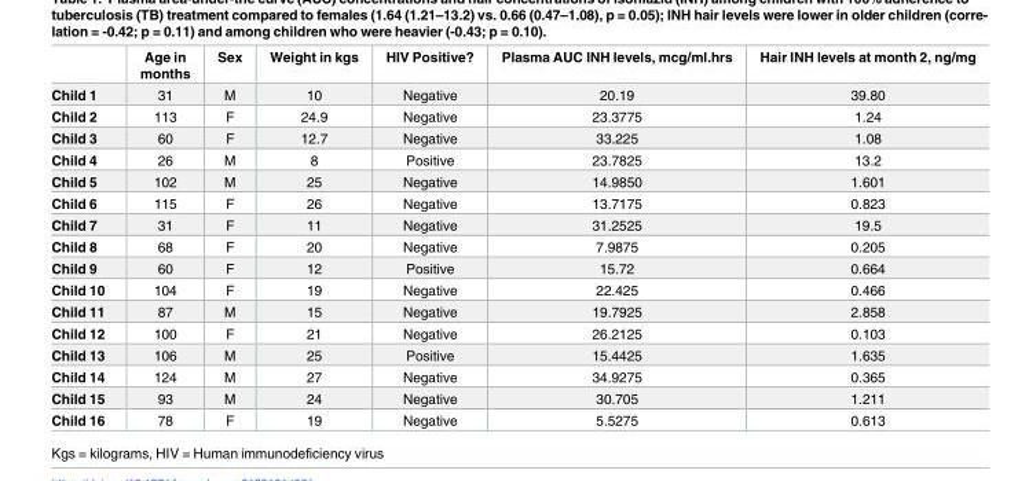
<table><thead><tr><td></td><td>Age in months</td><td>Sex</td><td>Weight in kgs</td><td>HIV Positive?</td><td>Plasma AUC INH levels, mcg/ml.hrs</td><td>Hair INH levels at month 2, ng/mg</td></tr></thead><tbody><tr><td>Child 1</td><td>31</td><td>M</td><td>10</td><td>Negative</td><td>20.19</td><td>39.80</td></tr><tr><td>Child 2</td><td>113</td><td>F</td><td>24.9</td><td>Negative</td><td>23.3775</td><td>1.24</td></tr><tr><td>Child 3</td><td>60</td><td>F</td><td>12.7</td><td>Negative</td><td>33.225</td><td>1.08</td></tr><tr><td>Child 4</td><td>26</td><td>M</td><td>8</td><td>Positive</td><td>23.7825</td><td>13.2</td></tr><tr><td>Child 5</td><td>102</td><td>M</td><td>25</td><td>Negative</td><td>14.9850</td><td>1.601</td></tr><tr><td>Child 6</td><td>115</td><td>F</td><td>26</td><td>Negative</td><td>13.7175</td><td>0.823</td></tr><tr><td>Child 7</td><td>31</td><td>F</td><td>11</td><td>Negative</td><td>31.2525</td><td>19.5</td></tr><tr><td>Child 8</td><td>68</td><td>F</td><td>20</td><td>Negative</td><td>7.9875</td><td>0.205</td></tr><tr><td>Child 9</td><td>60</td><td>F</td><td>12</td><td>Positive</td><td>15.72</td><td>0.664</td></tr><tr><td>Child 10</td><td>104</td><td>F</td><td>19</td><td>Negative</td><td>22.425</td><td>0.466</td></tr><tr><td>Child 11</td><td>87</td><td>M</td><td>15</td><td>Negative</td><td>19.7925</td><td>2.858</td></tr><tr><td>Child 12</td><td>100</td><td>F</td><td>21</td><td>Negative</td><td>26.2125</td><td>0.103</td></tr><tr><td>Child 13</td><td>106</td><td>M</td><td>25</td><td>Positive</td><td>15.4425</td><td>1.635</td></tr><tr><td>Child 14</td><td>124</td><td>M</td><td>27</td><td>Negative</td><td>34.9275</td><td>0.365</td></tr><tr><td>Child 15</td><td>93</td><td>M</td><td>24</td><td>Negative</td><td>30.705</td><td>1.211</td></tr><tr><td>Child 16</td><td>78</td><td>F</td><td>19</td><td>Negative</td><td>5.5275</td><td>0.613</td></tr></tbody></table>